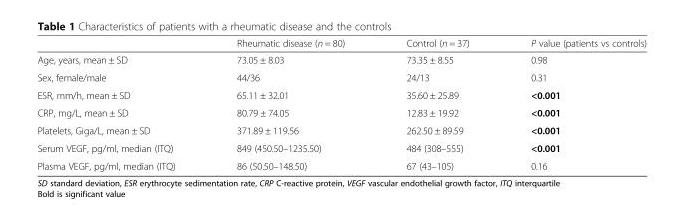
<table><thead><tr><td></td><td>Rheumatic disease (n = 80)</td><td>Control (n = 37)</td><td>P value (patients vs controls)</td></tr></thead><tbody><tr><td>Age, years, mean ± SD</td><td>73.05 ± 8.03</td><td>73.35 ± 8.55</td><td>0.98</td></tr><tr><td>Sex, female/male</td><td>44/36</td><td>24/13</td><td>0.31</td></tr><tr><td>ESR, mm/h, mean ± SD</td><td>65.11 ± 32.01</td><td>35.60 ± 25.89</td><td>&lt;0.001</td></tr><tr><td>CRP, mg/L, mean ± SD</td><td>80.79 ± 74.05</td><td>12.83 ± 19.92</td><td>&lt;0.001</td></tr><tr><td>Platelets, Giga/L, mean ± SD</td><td>371.89 ± 119.56</td><td>262.50 ± 89.59</td><td>&lt;0.001</td></tr><tr><td>Serum VEGF, pg/ml, median (ITQ)</td><td>849 (450.50–1235.50)</td><td>484 (308–555)</td><td>&lt;0.001</td></tr><tr><td>Plasma VEGF, pg/ml, median (ITQ)</td><td>86 (50.50–148.50)</td><td>67 (43–105)</td><td>0.16</td></tr></tbody></table>